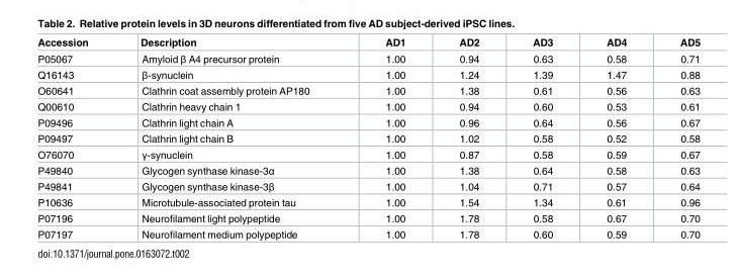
<table><thead><tr><td>Accession</td><td>Description</td><td>AD1</td><td>AD2</td><td>AD3</td><td>AD4</td><td>AD5</td></tr></thead><tbody><tr><td>P05067</td><td>Amyloid β A4 precursor protein</td><td>1.00</td><td>0.94</td><td>0.63</td><td>0.58</td><td>0.71</td></tr><tr><td>Q16143</td><td>β-synuclein</td><td>1.00</td><td>1.24</td><td>1.39</td><td>1.47</td><td>0.88</td></tr><tr><td>O60641</td><td>Clathrin coat assembly protein AP180</td><td>1.00</td><td>1.38</td><td>0.61</td><td>0.56</td><td>0.63</td></tr><tr><td>Q00610</td><td>Clathrin heavy chain 1</td><td>1.00</td><td>0.94</td><td>0.60</td><td>0.53</td><td>0.61</td></tr><tr><td>P09496</td><td>Clathrin light chain A</td><td>1.00</td><td>0.96</td><td>0.64</td><td>0.56</td><td>0.67</td></tr><tr><td>P09497</td><td>Clathrin light chain B</td><td>1.00</td><td>1.02</td><td>0.58</td><td>0.52</td><td>0.58</td></tr><tr><td>O76070</td><td>γ-synuclein</td><td>1.00</td><td>0.87</td><td>0.58</td><td>0.59</td><td>0.67</td></tr><tr><td>P49840</td><td>Glycogen synthase kinase-3α</td><td>1.00</td><td>1.38</td><td>0.64</td><td>0.58</td><td>0.63</td></tr><tr><td>P49841</td><td>Glycogen synthase kinase-3β</td><td>1.00</td><td>1.04</td><td>0.71</td><td>0.57</td><td>0.64</td></tr><tr><td>P10636</td><td>Microtubule-associated protein tau</td><td>1.00</td><td>1.54</td><td>1.34</td><td>0.61</td><td>0.96</td></tr><tr><td>P07196</td><td>Neurofilament light polypeptide</td><td>1.00</td><td>1.78</td><td>0.58</td><td>0.67</td><td>0.70</td></tr><tr><td>P07197</td><td>Neurofilament medium polypeptide</td><td>1.00</td><td>1.78</td><td>0.60</td><td>0.59</td><td>0.70</td></tr></tbody></table>